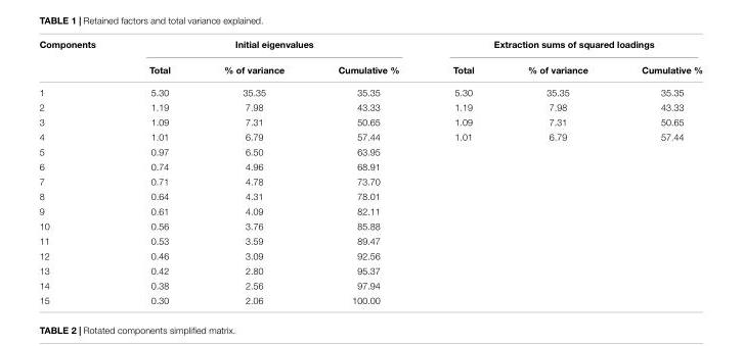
<table><thead><tr><td rowspan="2">Components</td><td colspan="3">Initial eigenvalues</td><td colspan="3">Extraction sums of squared loadings</td></tr><tr><td>Total</td><td>% of variance</td><td>Cumulative %</td><td>Total</td><td>% of variance</td><td>Cumulative %</td></tr></thead><tbody><tr><td>1</td><td>5.30</td><td>35.35</td><td>35.35</td><td>5.30</td><td>35.35</td><td>35.35</td></tr><tr><td>2</td><td>1.19</td><td>7.98</td><td>43.33</td><td>1.19</td><td>7.98</td><td>43.33</td></tr><tr><td>3</td><td>1.09</td><td>7.31</td><td>50.65</td><td>1.09</td><td>7.31</td><td>50.65</td></tr><tr><td>4</td><td>1.01</td><td>6.79</td><td>57.44</td><td>1.01</td><td>6.79</td><td>57.44</td></tr><tr><td>5</td><td>0.97</td><td>6.50</td><td>63.95</td><td></td><td></td><td></td></tr><tr><td>6</td><td>0.74</td><td>4.96</td><td>68.91</td><td></td><td></td><td></td></tr><tr><td>7</td><td>0.71</td><td>4.78</td><td>73.70</td><td></td><td></td><td></td></tr><tr><td>8</td><td>0.64</td><td>4.31</td><td>78.01</td><td></td><td></td><td></td></tr><tr><td>9</td><td>0.61</td><td>4.09</td><td>82.11</td><td></td><td></td><td></td></tr><tr><td>10</td><td>0.56</td><td>3.76</td><td>85.88</td><td></td><td></td><td></td></tr><tr><td>11</td><td>0.53</td><td>3.59</td><td>89.47</td><td></td><td></td><td></td></tr><tr><td>12</td><td>0.46</td><td>3.09</td><td>92.56</td><td></td><td></td><td></td></tr><tr><td>13</td><td>0.42</td><td>2.80</td><td>95.37</td><td></td><td></td><td></td></tr><tr><td>14</td><td>0.38</td><td>2.56</td><td>97.94</td><td></td><td></td><td></td></tr><tr><td>15</td><td>0.30</td><td>2.06</td><td>100.00</td><td></td><td></td><td></td></tr></tbody></table>